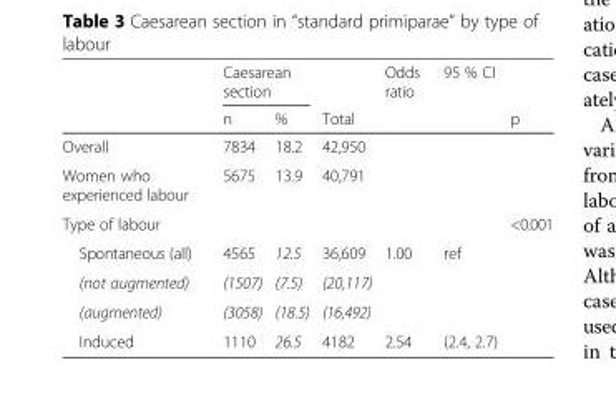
<table><thead><tr><td rowspan="2"></td><td colspan="2">Caesarean section</td><td rowspan="2">Total</td><td rowspan="2">Odds ratio</td><td rowspan="2">95 % CI</td><td rowspan="2">p</td></tr><tr><td>n</td><td>%</td></tr></thead><tbody><tr><td>Overall</td><td>7834</td><td>18.2</td><td>42,950</td><td></td><td></td><td></td></tr><tr><td>Women who experienced labour</td><td>5675</td><td>13.9</td><td>40,791</td><td></td><td></td><td></td></tr><tr><td>Type of labour</td><td></td><td></td><td></td><td></td><td></td><td>&lt;0.001</td></tr><tr><td>Spontaneous (all)</td><td>4565</td><td>12.5</td><td>36,609</td><td>1.00</td><td>ref</td><td></td></tr><tr><td>(not augmented)</td><td>(1507)</td><td>(7.5)</td><td>(20,117)</td><td></td><td></td><td></td></tr><tr><td>(augmented)</td><td>(3058)</td><td>(18.5)</td><td>(16,492)</td><td></td><td></td><td></td></tr><tr><td>Induced</td><td>1110</td><td>26.5</td><td>4182</td><td>2.54</td><td>(2.4, 2.7)</td><td></td></tr></tbody></table>